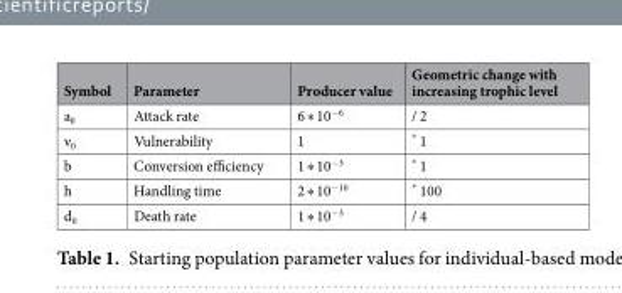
<table><thead><tr><td>Symbol</td><td>Parameter</td><td>Producer value</td><td>Geometric change with increasing trophic level</td></tr></thead><tbody><tr><td>a<sub>0</sub></td><td>Attack rate</td><td>6 ∗ 10<sup>−6</sup></td><td>/ 2</td></tr><tr><td>v<sub>0</sub></td><td>Vulnerability</td><td>1</td><td>* 1</td></tr><tr><td>b</td><td>Conversion efficiency</td><td>1 ∗ 10<sup>−3</sup></td><td>* 1</td></tr><tr><td>h</td><td>Handling time</td><td>2 ∗ 10<sup>−10</sup></td><td>* 100</td></tr><tr><td>d<sub>0</sub></td><td>Death rate</td><td>1 ∗ 10<sup>−3</sup></td><td>/ 4</td></tr></tbody></table>